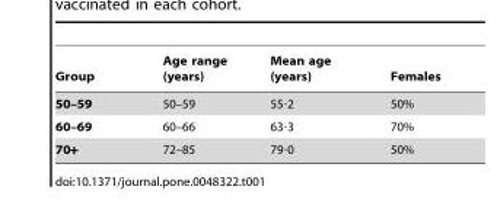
<table><thead><tr><td>Group</td><td>Age range (years)</td><td>Mean age (years)</td><td>Females</td></tr></thead><tbody><tr><td>50–59</td><td>50–59</td><td>55·2</td><td>50%</td></tr><tr><td>60–69</td><td>60–66</td><td>63·3</td><td>70%</td></tr><tr><td>70+</td><td>72–85</td><td>79·0</td><td>50%</td></tr></tbody></table>